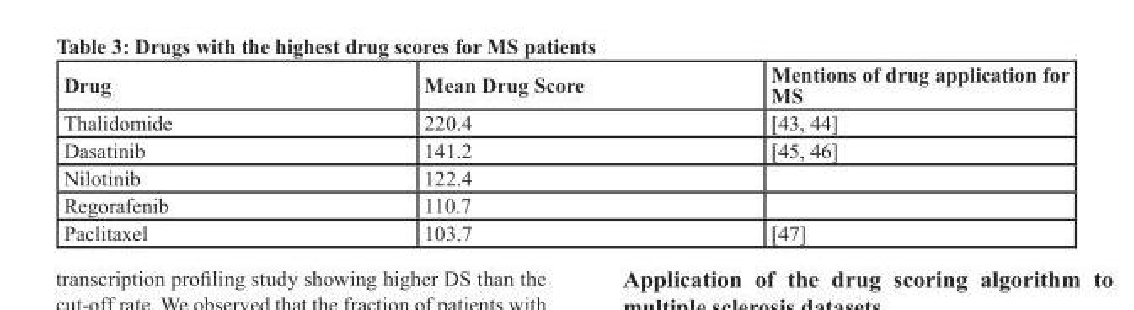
<table><thead><tr><td>Drug</td><td>Mean Drug Score</td><td>Mentions of drug application for MS</td></tr></thead><tbody><tr><td>Thalidomide</td><td>220.4</td><td>[43, 44]</td></tr><tr><td>Dasatinib</td><td>141.2</td><td>[45, 46]</td></tr><tr><td>Nilotinib</td><td>122.4</td><td></td></tr><tr><td>Regorafenib</td><td>110.7</td><td></td></tr><tr><td>Paclitaxel</td><td>103.7</td><td>[47]</td></tr></tbody></table>